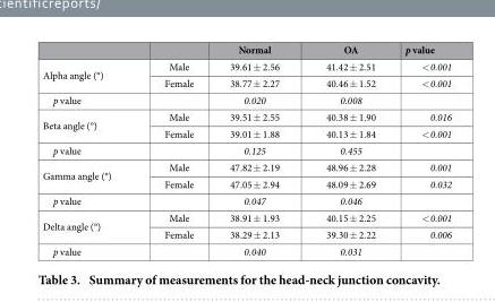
<table><thead><tr><td></td><td></td><td>Normal</td><td>OA</td><td>p value</td></tr></thead><tbody><tr><td rowspan="2">Alpha angle (°)</td><td>Male</td><td>39.61 ± 2.56</td><td>41.42 ± 2.51</td><td>&lt; 0.001</td></tr><tr><td>Female</td><td>38.77 ± 2.27</td><td>40.46 ± 1.52</td><td>&lt; 0.001</td></tr><tr><td>p value</td><td></td><td>0.020</td><td>0.008</td><td></td></tr><tr><td rowspan="2">Beta angle (°)</td><td>Male</td><td>39.51 ± 2.55</td><td>40.38 ± 1.90</td><td>0.016</td></tr><tr><td>Female</td><td>39.01 ± 1.88</td><td>40.13 ± 1.84</td><td>&lt; 0.001</td></tr><tr><td>p value</td><td></td><td>0.125</td><td>0.455</td><td></td></tr><tr><td rowspan="2">Gamma angle (°)</td><td>Male</td><td>47.82 ± 2.19</td><td>48.96 ± 2.28</td><td>0.001</td></tr><tr><td>Female</td><td>47.05 ± 2.94</td><td>48.09 ± 2.69</td><td>0.032</td></tr><tr><td>p value</td><td></td><td>0.047</td><td>0.046</td><td></td></tr><tr><td rowspan="2">Delta angle (°)</td><td>Male</td><td>38.91 ± 1.93</td><td>40.15 ± 2.25</td><td>&lt; 0.001</td></tr><tr><td>Female</td><td>38.29 ± 2.13</td><td>39.30 ± 2.22</td><td>0.006</td></tr><tr><td>p value</td><td></td><td>0.040</td><td>0.031</td><td></td></tr></tbody></table>